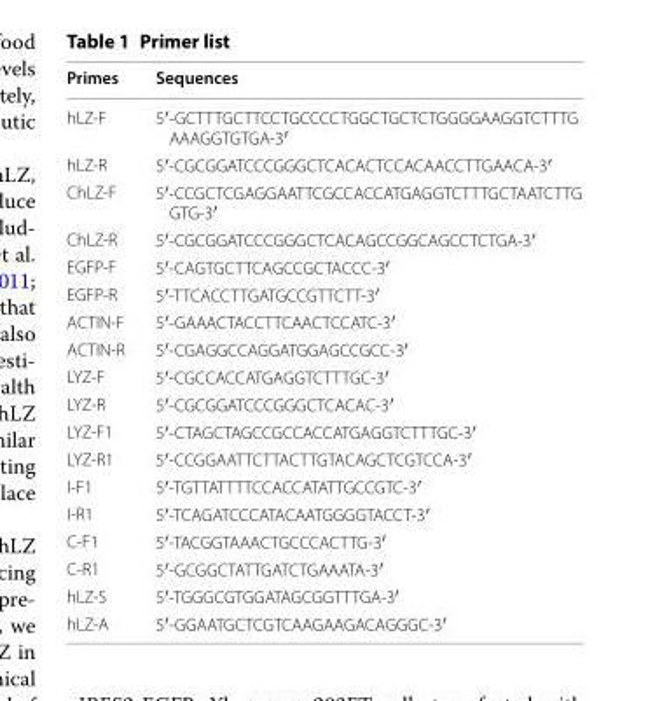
<table><thead><tr><td>Primes</td><td>Sequences</td></tr></thead><tbody><tr><td>hLZ-F</td><td>5′-GCTTTGCTTCCTGCCCCTGGCTGCTCTGGGGAAGGTCTTTG AAAGGTGTGA-3′</td></tr><tr><td>hLZ-R</td><td>5′-CGCGGATCCCGGGCTCACACTCCACAACCTTGAACA-3′</td></tr><tr><td>ChLZ-F</td><td>5′-CCGCTCGAGGAATTCGCCACCATGAGGTCTTTGCTAATCTTG GTG-3′</td></tr><tr><td>ChLZ-R</td><td>5′-CGCGGATCCCGGGCTCACAGCCGGCAGCCTCTGA-3′</td></tr><tr><td>EGFP-F</td><td>5′-CAGTGCTTCAGCCGCTACCC-3′</td></tr><tr><td>EGFP-R</td><td>5′-TTCACCTTGATGCCGTTCTT-3′</td></tr><tr><td>ACTIN-F</td><td>5′-GAAACTACCTTCAACTCCATC-3′</td></tr><tr><td>ACTIN-R</td><td>5′-CGAGGCCAGGATGGAGCCGCC-3′</td></tr><tr><td>LYZ-F</td><td>5′-CGCCACCATGAGGTCTTTGC-3′</td></tr><tr><td>LYZ-R</td><td>5′-CGCGGATCCCGGGCTCACAC-3′</td></tr><tr><td>LYZ-F1</td><td>5′-CTAGCTAGCCGCCACCATGAGGTCTTTGC-3′</td></tr><tr><td>LYZ-R1</td><td>5′-CCGGAATTCTTACTTGTACAGCTCGTCCA-3′</td></tr><tr><td>I-F1</td><td>5′-TGTTATTTTCCACCATATTGCCGTC-3′</td></tr><tr><td>I-R1</td><td>5′-TCAGATCCCATACAATGGGGTACCT-3′</td></tr><tr><td>C-F1</td><td>5′-TACGGTAAACTGCCCACTTG-3′</td></tr><tr><td>C-R1</td><td>5′-GCGGCTATTGATCTGAAATA-3′</td></tr><tr><td>hLZ-S</td><td>5′-TGGGCGTGGATAGCGGTTTGA-3′</td></tr><tr><td>hLZ-A</td><td>5′-GGAATGCTCGTCAAGAAGACAGGGC-3′</td></tr></tbody></table>